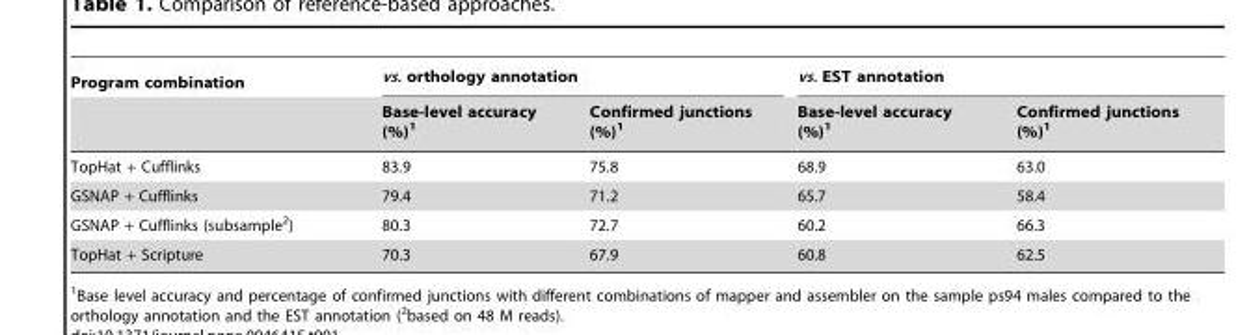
<table><thead><tr><td rowspan="2">Program combination</td><td colspan="2">vs. orthology annotation</td><td colspan="2">vs. EST annotation</td></tr><tr><td>Base-level accuracy (%)<sup>1</sup></td><td>Confirmed junctions (%)<sup>1</sup></td><td>Base-level accuracy (%)<sup>1</sup></td><td>Confirmed junctions (%)<sup>1</sup></td></tr></thead><tbody><tr><td>TopHat + Cufflinks</td><td>83.9</td><td>75.8</td><td>68.9</td><td>63.0</td></tr><tr><td>GSNAP + Cufflinks</td><td>79.4</td><td>71.2</td><td>65.7</td><td>58.4</td></tr><tr><td>GSNAP + Cufflinks (subsample<sup>2</sup>)</td><td>80.3</td><td>72.7</td><td>60.2</td><td>66.3</td></tr><tr><td>TopHat + Scripture</td><td>70.3</td><td>67.9</td><td>60.8</td><td>62.5</td></tr></tbody></table>